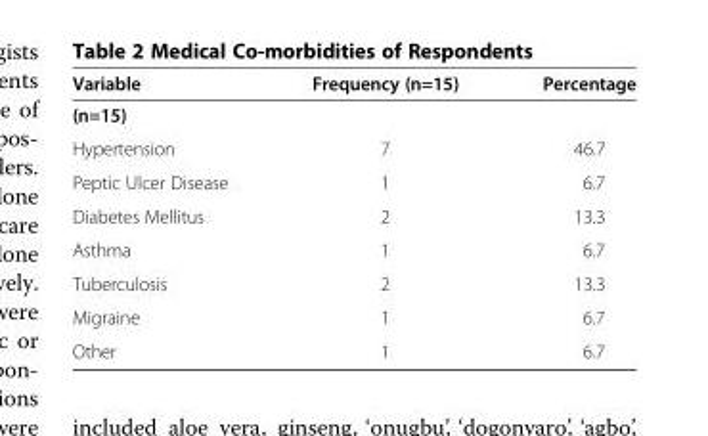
<table><thead><tr><td>Variable</td><td>Frequency (n=15)</td><td>Percentage</td></tr></thead><tbody><tr><td colspan="3">(n=15)</td></tr><tr><td>Hypertension</td><td>7</td><td>46.7</td></tr><tr><td>Peptic Ulcer Disease</td><td>1</td><td>6.7</td></tr><tr><td>Diabetes Mellitus</td><td>2</td><td>13.3</td></tr><tr><td>Asthma</td><td>1</td><td>6.7</td></tr><tr><td>Tuberculosis</td><td>2</td><td>13.3</td></tr><tr><td>Migraine</td><td>1</td><td>6.7</td></tr><tr><td>Other</td><td>1</td><td>6.7</td></tr></tbody></table>